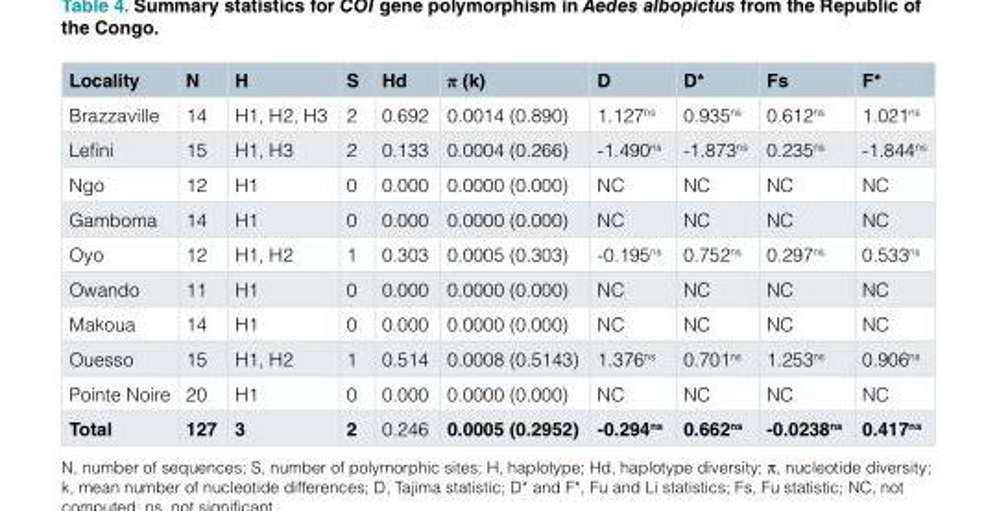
<table><thead><tr><td>Locality</td><td>N</td><td>H</td><td>S</td><td>Hd</td><td>π (k)</td><td>D</td><td>D*</td><td>Fs</td><td>F*</td></tr></thead><tbody><tr><td>Brazzaville</td><td>14</td><td>H1, H2, H3</td><td>2</td><td>0.692</td><td>0.0014 (0.890)</td><td>1.127<sup>ns</sup></td><td>0.935<sup>ns</sup></td><td>0.612<sup>ns</sup></td><td>1.021<sup>ns</sup></td></tr><tr><td>Lefini</td><td>15</td><td>H1, H3</td><td>2</td><td>0.133</td><td>0.0004 (0.266)</td><td>-1.490<sup>ns</sup></td><td>-1.873<sup>ns</sup></td><td>0.235<sup>ns</sup></td><td>-1.844<sup>ns</sup></td></tr><tr><td>Ngo</td><td>12</td><td>H1</td><td>0</td><td>0.000</td><td>0.0000 (0.000)</td><td>NC</td><td>NC</td><td>NC</td><td>NC</td></tr><tr><td>Gamboma</td><td>14</td><td>H1</td><td>0</td><td>0.000</td><td>0.0000 (0.000)</td><td>NC</td><td>NC</td><td>NC</td><td>NC</td></tr><tr><td>Oyo</td><td>12</td><td>H1, H2</td><td>1</td><td>0.303</td><td>0.0005 (0.303)</td><td>-0.195<sup>ns</sup></td><td>0.752<sup>ns</sup></td><td>0.297<sup>ns</sup></td><td>0.533<sup>ns</sup></td></tr><tr><td>Owando</td><td>11</td><td>H1</td><td>0</td><td>0.000</td><td>0.0000 (0.000)</td><td>NC</td><td>NC</td><td>NC</td><td>NC</td></tr><tr><td>Makoua</td><td>14</td><td>H1</td><td>0</td><td>0.000</td><td>0.0000 (0.000)</td><td>NC</td><td>NC</td><td>NC</td><td>NC</td></tr><tr><td>Ouesso</td><td>15</td><td>H1, H2</td><td>1</td><td>0.514</td><td>0.0008 (0.5143)</td><td>1.376<sup>ns</sup></td><td>0.701<sup>ns</sup></td><td>1.253<sup>ns</sup></td><td>0.906<sup>ns</sup></td></tr><tr><td>Pointe Noire</td><td>20</td><td>H1</td><td>0</td><td>0.000</td><td>0.0000 (0.000)</td><td>NC</td><td>NC</td><td>NC</td><td>NC</td></tr><tr><td>Total</td><td>127</td><td>3</td><td>2</td><td>0.246</td><td>0.0005 (0.2952)</td><td>-0.294<sup>ns</sup></td><td>0.662<sup>ns</sup></td><td>-0.0238<sup>ns</sup></td><td>0.417<sup>ns</sup></td></tr></tbody></table>